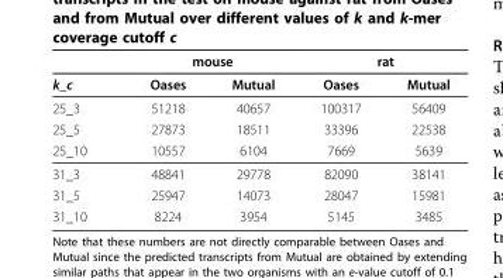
<table><thead><tr><td rowspan="2">k_c</td><td colspan="2">mouse</td><td colspan="2">rat</td></tr><tr><td>Oases</td><td>Mutual</td><td>Oases</td><td>Mutual</td></tr></thead><tbody><tr><td>25_3</td><td>51218</td><td>40657</td><td>100317</td><td>56409</td></tr><tr><td>25_5</td><td>27873</td><td>18511</td><td>33396</td><td>22538</td></tr><tr><td>25_10</td><td>10557</td><td>6104</td><td>7669</td><td>5639</td></tr><tr><td>31_3</td><td>48841</td><td>29778</td><td>82090</td><td>38141</td></tr><tr><td>31_5</td><td>25947</td><td>14073</td><td>28047</td><td>15981</td></tr><tr><td>31_10</td><td>8224</td><td>3954</td><td>5145</td><td>3485</td></tr></tbody></table>